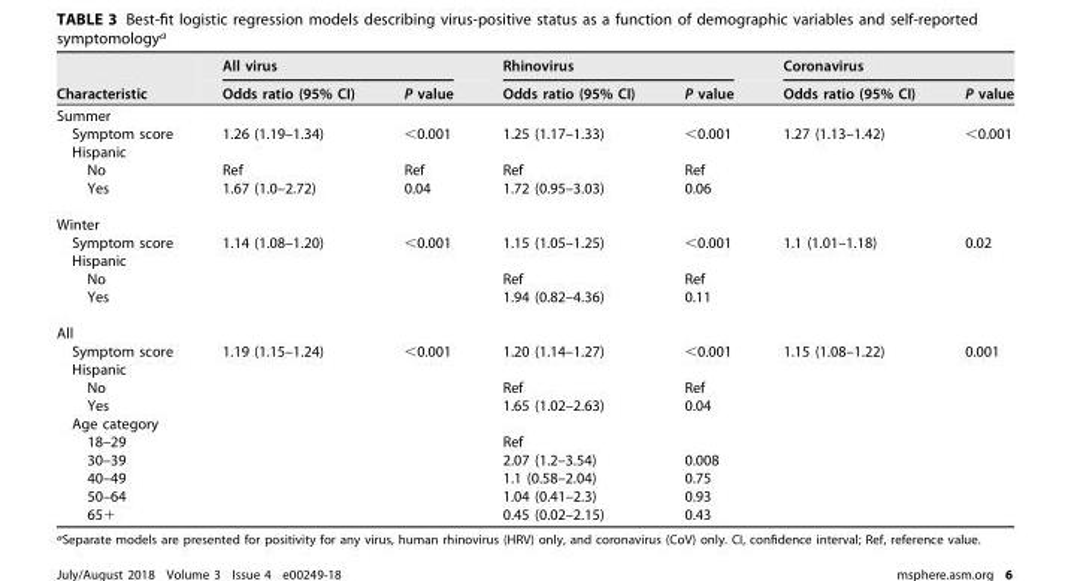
<table><thead><tr><td rowspan="2">Characteristic</td><td colspan="2">All virus</td><td colspan="2">Rhinovirus</td><td colspan="2">Coronavirus</td></tr><tr><td>Odds ratio (95% CI)</td><td>P value</td><td>Odds ratio (95% CI)</td><td>P value</td><td>Odds ratio (95% CI)</td><td>P value</td></tr></thead><tbody><tr><td colspan="7">Summer</td></tr><tr><td>Symptom score</td><td>1.26 (1.19–1.34)</td><td>&lt;0.001</td><td>1.25 (1.17–1.33)</td><td>&lt;0.001</td><td>1.27 (1.13–1.42)</td><td>&lt;0.001</td></tr><tr><td colspan="7">Hispanic</td></tr><tr><td>No</td><td>Ref</td><td>Ref</td><td>Ref</td><td>Ref</td><td></td><td></td></tr><tr><td>Yes</td><td>1.67 (1.0–2.72)</td><td>0.04</td><td>1.72 (0.95–3.03)</td><td>0.06</td><td></td><td></td></tr><tr><td colspan="7">Winter</td></tr><tr><td>Symptom score</td><td>1.14 (1.08–1.20)</td><td>&lt;0.001</td><td>1.15 (1.05–1.25)</td><td>&lt;0.001</td><td>1.1 (1.01–1.18)</td><td>0.02</td></tr><tr><td colspan="7">Hispanic</td></tr><tr><td>No</td><td></td><td></td><td>Ref</td><td>Ref</td><td></td><td></td></tr><tr><td>Yes</td><td></td><td></td><td>1.94 (0.82–4.36)</td><td>0.11</td><td></td><td></td></tr><tr><td colspan="7">All</td></tr><tr><td>Symptom score</td><td>1.19 (1.15–1.24)</td><td>&lt;0.001</td><td>1.20 (1.14–1.27)</td><td>&lt;0.001</td><td>1.15 (1.08–1.22)</td><td>0.001</td></tr><tr><td colspan="7">Hispanic</td></tr><tr><td>No</td><td></td><td></td><td>Ref</td><td>Ref</td><td></td><td></td></tr><tr><td>Yes</td><td></td><td></td><td>1.65 (1.02–2.63)</td><td>0.04</td><td></td><td></td></tr><tr><td colspan="7">Age category</td></tr><tr><td>18–29</td><td></td><td></td><td>Ref</td><td></td><td></td><td></td></tr><tr><td>30–39</td><td></td><td></td><td>2.07 (1.2–3.54)</td><td>0.008</td><td></td><td></td></tr><tr><td>40–49</td><td></td><td></td><td>1.1 (0.58–2.04)</td><td>0.75</td><td></td><td></td></tr><tr><td>50–64</td><td></td><td></td><td>1.04 (0.41–2.3)</td><td>0.93</td><td></td><td></td></tr><tr><td>65+</td><td></td><td></td><td>0.45 (0.02–2.15)</td><td>0.43</td><td></td><td></td></tr></tbody></table>